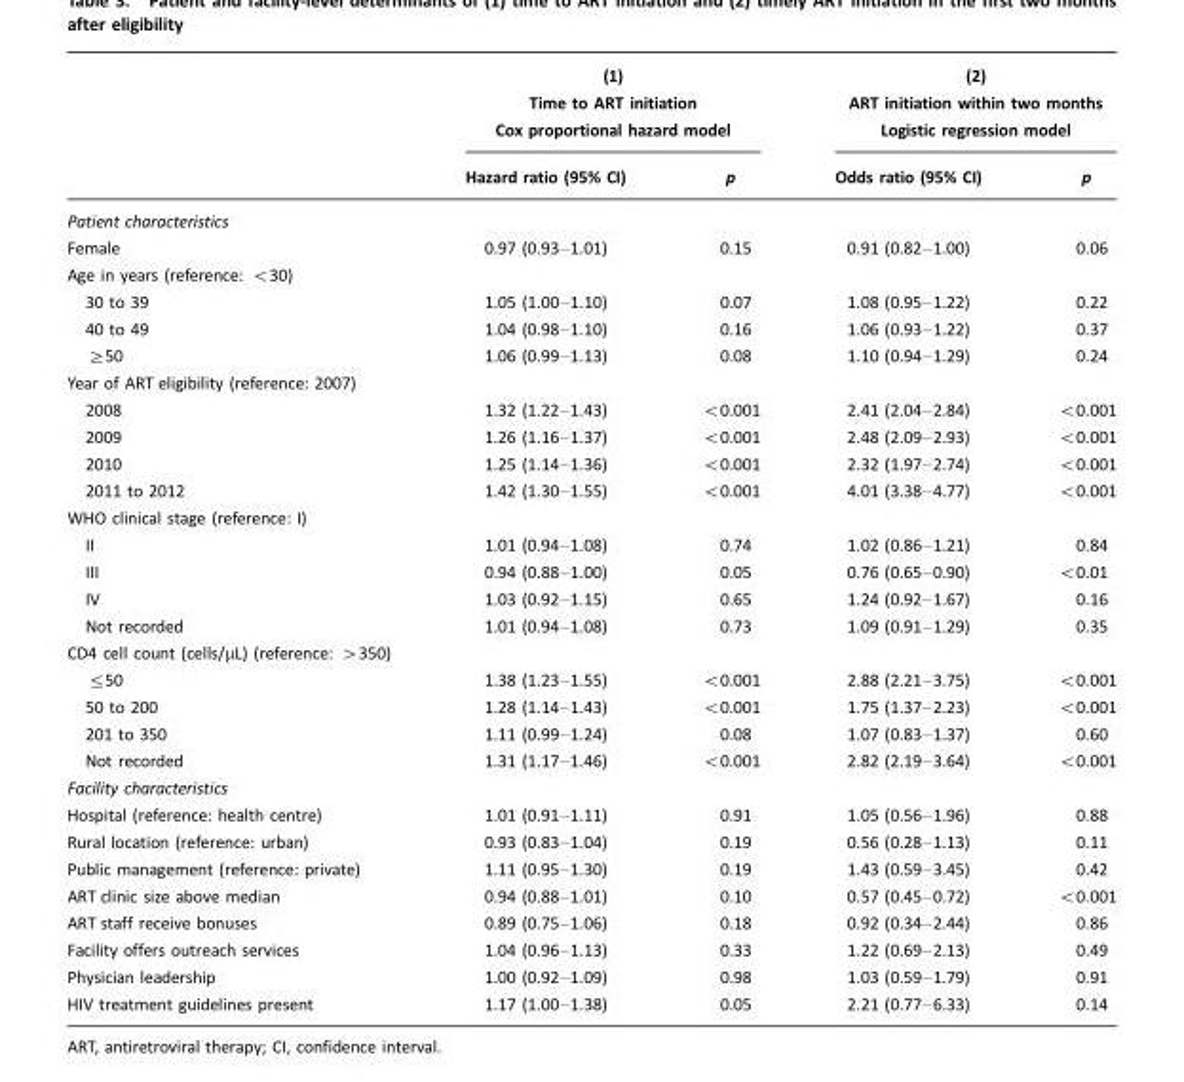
<table><thead><tr><td rowspan="2"></td><td colspan="2">(1) Time to ART initiation Cox proportional hazard model</td><td colspan="2">(2) ART initiation within two months Logistic regression model</td></tr><tr><td>Hazard ratio (95% CI)</td><td>p</td><td>Odds ratio (95% CI)</td><td>p</td></tr></thead><tbody><tr><td colspan="5">Patient characteristics</td></tr><tr><td>Female</td><td>0.97 (0.93–1.01)</td><td>0.15</td><td>0.91 (0.82–1.00)</td><td>0.06</td></tr><tr><td colspan="5">Age in years (reference: &lt;30)</td></tr><tr><td>30 to 39</td><td>1.05 (1.00–1.10)</td><td>0.07</td><td>1.08 (0.95–1.22)</td><td>0.22</td></tr><tr><td>40 to 49</td><td>1.04 (0.98–1.10)</td><td>0.16</td><td>1.06 (0.93–1.22)</td><td>0.37</td></tr><tr><td>≥50</td><td>1.06 (0.99–1.13)</td><td>0.08</td><td>1.10 (0.94–1.29)</td><td>0.24</td></tr><tr><td colspan="5">Year of ART eligibility (reference: 2007)</td></tr><tr><td>2008</td><td>1.32 (1.22–1.43)</td><td>&lt;0.001</td><td>2.41 (2.04–2.84)</td><td>&lt;0.001</td></tr><tr><td>2009</td><td>1.26 (1.16–1.37)</td><td>&lt;0.001</td><td>2.48 (2.09–2.93)</td><td>&lt;0.001</td></tr><tr><td>2010</td><td>1.25 (1.14–1.36)</td><td>&lt;0.001</td><td>2.32 (1.97–2.74)</td><td>&lt;0.001</td></tr><tr><td>2011 to 2012</td><td>1.42 (1.30–1.55)</td><td>&lt;0.001</td><td>4.01 (3.38–4.77)</td><td>&lt;0.001</td></tr><tr><td colspan="5">WHO clinical stage (reference: I)</td></tr><tr><td>II</td><td>1.01 (0.94–1.08)</td><td>0.74</td><td>1.02 (0.86–1.21)</td><td>0.84</td></tr><tr><td>III</td><td>0.94 (0.88–1.00)</td><td>0.05</td><td>0.76 (0.65–0.90)</td><td>&lt;0.01</td></tr><tr><td>IV</td><td>1.03 (0.92–1.15)</td><td>0.65</td><td>1.24 (0.92–1.67)</td><td>0.16</td></tr><tr><td>Not recorded</td><td>1.01 (0.94–1.08)</td><td>0.73</td><td>1.09 (0.91–1.29)</td><td>0.35</td></tr><tr><td colspan="5">CD4 cell count (cells/µL) (reference: &gt;350)</td></tr><tr><td>≤50</td><td>1.38 (1.23–1.55)</td><td>&lt;0.001</td><td>2.88 (2.21–3.75)</td><td>&lt;0.001</td></tr><tr><td>50 to 200</td><td>1.28 (1.14–1.43)</td><td>&lt;0.001</td><td>1.75 (1.37–2.23)</td><td>&lt;0.001</td></tr><tr><td>201 to 350</td><td>1.11 (0.99–1.24)</td><td>0.08</td><td>1.07 (0.83–1.37)</td><td>0.60</td></tr><tr><td>Not recorded</td><td>1.31 (1.17–1.46)</td><td>&lt;0.001</td><td>2.82 (2.19–3.64)</td><td>&lt;0.001</td></tr><tr><td colspan="5">Facility characteristics</td></tr><tr><td>Hospital (reference: health centre)</td><td>1.01 (0.91–1.11)</td><td>0.91</td><td>1.05 (0.56–1.96)</td><td>0.88</td></tr><tr><td>Rural location (reference: urban)</td><td>0.93 (0.83–1.04)</td><td>0.19</td><td>0.56 (0.28–1.13)</td><td>0.11</td></tr><tr><td>Public management (reference: private)</td><td>1.11 (0.95–1.30)</td><td>0.19</td><td>1.43 (0.59–3.45)</td><td>0.42</td></tr><tr><td>ART clinic size above median</td><td>0.94 (0.88–1.01)</td><td>0.10</td><td>0.57 (0.45–0.72)</td><td>&lt;0.001</td></tr><tr><td>ART staff receive bonuses</td><td>0.89 (0.75–1.06)</td><td>0.18</td><td>0.92 (0.34–2.44)</td><td>0.86</td></tr><tr><td>Facility offers outreach services</td><td>1.04 (0.96–1.13)</td><td>0.33</td><td>1.22 (0.69–2.13)</td><td>0.49</td></tr><tr><td>Physician leadership</td><td>1.00 (0.92–1.09)</td><td>0.98</td><td>1.03 (0.59–1.79)</td><td>0.91</td></tr><tr><td>HIV treatment guidelines present</td><td>1.17 (1.00–1.38)</td><td>0.05</td><td>2.21 (0.77–6.33)</td><td>0.14</td></tr></tbody></table>